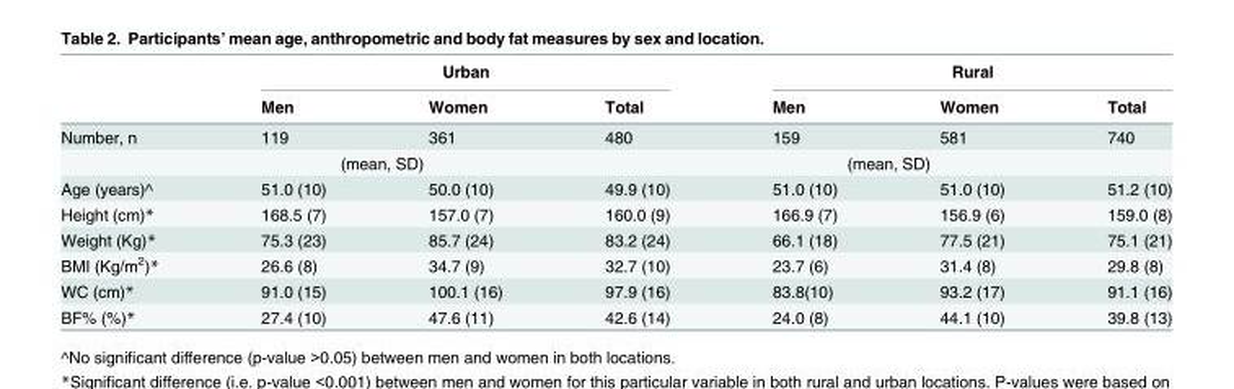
<table><thead><tr><td rowspan="2"></td><td colspan="3">Urban</td><td colspan="3">Rural</td></tr><tr><td>Men</td><td>Women</td><td>Total</td><td>Men</td><td>Women</td><td>Total</td></tr></thead><tbody><tr><td rowspan="2">Number, n</td><td>119</td><td>361</td><td>480</td><td>159</td><td>581</td><td>740</td></tr><tr><td colspan="2">(mean, SD)</td><td></td><td colspan="2">(mean, SD)</td><td></td></tr><tr><td>Age (years)^</td><td>51.0 (10)</td><td>50.0 (10)</td><td>49.9 (10)</td><td>51.0 (10)</td><td>51.0 (10)</td><td>51.2 (10)</td></tr><tr><td>Height (cm)*</td><td>168.5 (7)</td><td>157.0 (7)</td><td>160.0 (9)</td><td>166.9 (7)</td><td>156.9 (6)</td><td>159.0 (8)</td></tr><tr><td>Weight (Kg)*</td><td>75.3 (23)</td><td>85.7 (24)</td><td>83.2 (24)</td><td>66.1 (18)</td><td>77.5 (21)</td><td>75.1 (21)</td></tr><tr><td>BMI (Kg/m<sup>2</sup>)*</td><td>26.6 (8)</td><td>34.7 (9)</td><td>32.7 (10)</td><td>23.7 (6)</td><td>31.4 (8)</td><td>29.8 (8)</td></tr><tr><td>WC (cm)*</td><td>91.0 (15)</td><td>100.1 (16)</td><td>97.9 (16)</td><td>83.8(10)</td><td>93.2 (17)</td><td>91.1 (16)</td></tr><tr><td>BF% (%)*</td><td>27.4 (10)</td><td>47.6 (11)</td><td>42.6 (14)</td><td>24.0 (8)</td><td>44.1 (10)</td><td>39.8 (13)</td></tr></tbody></table>